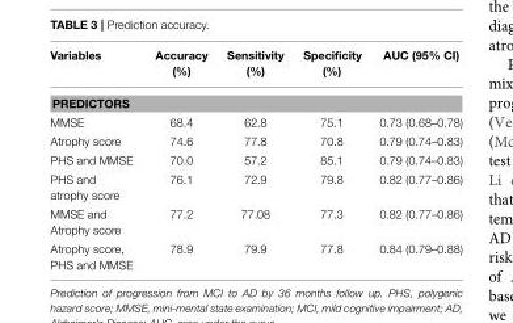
<table><thead><tr><td>Variables</td><td>Accuracy (%)</td><td>Sensitivity (%)</td><td>Specificity (%)</td><td>AUC (95% CI)</td></tr></thead><tbody><tr><td colspan="5">PREDICTORS</td></tr><tr><td>MMSE</td><td>68.4</td><td>62.8</td><td>75.1</td><td>0.73 (0.68–0.78)</td></tr><tr><td>Atrophy score</td><td>74.6</td><td>77.8</td><td>70.8</td><td>0.79 (0.74–0.83)</td></tr><tr><td>PHS and MMSE</td><td>70.0</td><td>57.2</td><td>85.1</td><td>0.79 (0.74–0.83)</td></tr><tr><td>PHS and atrophy score</td><td>76.1</td><td>72.9</td><td>79.8</td><td>0.82 (0.77–0.86)</td></tr><tr><td>MMSE and Atrophy score</td><td>77.2</td><td>77.08</td><td>77.3</td><td>0.82 (0.77–0.86)</td></tr><tr><td>Atrophy score, PHS and MMSE</td><td>78.9</td><td>79.9</td><td>77.8</td><td>0.84 (0.79–0.88)</td></tr></tbody></table>